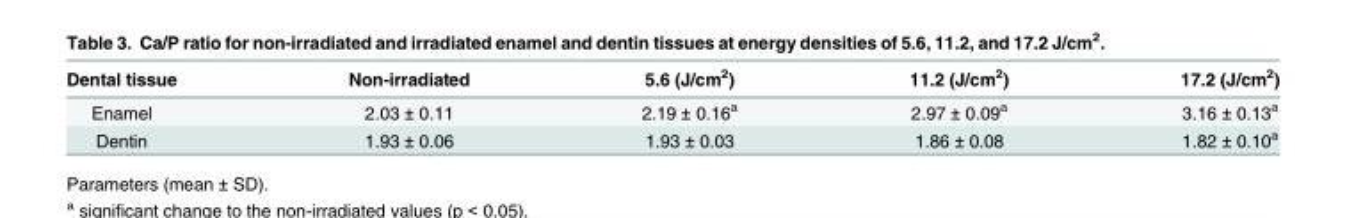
<table><thead><tr><td>Dental tissue</td><td>Non-irradiated</td><td>5.6 (J/cm<sup>2</sup>)</td><td>11.2 (J/cm<sup>2</sup>)</td><td>17.2 (J/cm<sup>2</sup>)</td></tr></thead><tbody><tr><td>Enamel</td><td>2.03 ± 0.11</td><td>2.19 ± 0.16<sup>a</sup></td><td>2.97 ± 0.09<sup>a</sup></td><td>3.16 ± 0.13<sup>a</sup></td></tr><tr><td>Dentin</td><td>1.93 ± 0.06</td><td>1.93 ± 0.03</td><td>1.86 ± 0.08</td><td>1.82 ± 0.10<sup>a</sup></td></tr></tbody></table>